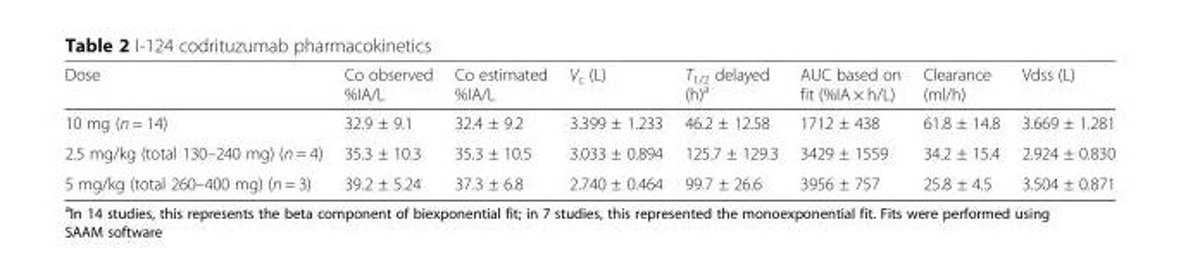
<table><thead><tr><td>Dose</td><td>Co observed %IA/L</td><td>Co estimated %IA/L</td><td>V<sub>c</sub> (L)</td><td>T<sub>1/2</sub> delayed (h)<sup>a</sup></td><td>AUC based on fit (%IA × h/L)</td><td>Clearance (ml/h)</td><td>Vdss (L)</td></tr></thead><tbody><tr><td>10 mg (n = 14)</td><td>32.9 ± 9.1</td><td>32.4 ± 9.2</td><td>3.399 ± 1.233</td><td>46.2 ± 12.58</td><td>1712 ± 438</td><td>61.8 ± 14.8</td><td>3.669 ± 1.281</td></tr><tr><td>2.5 mg/kg (total 130–240 mg) (n = 4)</td><td>35.3 ± 10.3</td><td>35.3 ± 10.5</td><td>3.033 ± 0.894</td><td>125.7 ± 129.3</td><td>3429 ± 1559</td><td>34.2 ± 15.4</td><td>2.924 ± 0.830</td></tr><tr><td>5 mg/kg (total 260–400 mg) (n = 3)</td><td>39.2 ± 5.24</td><td>37.3 ± 6.8</td><td>2.740 ± 0.464</td><td>99.7 ± 26.6</td><td>3956 ± 757</td><td>25.8 ± 4.5</td><td>3.504 ± 0.871</td></tr></tbody></table>